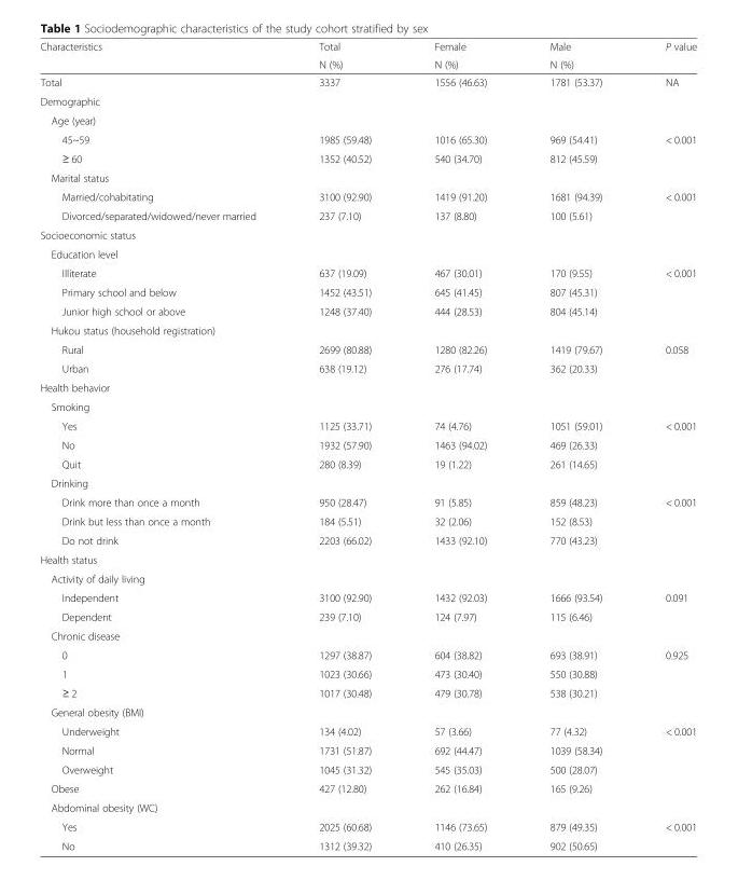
<table><thead><tr><td rowspan="2">Characteristics</td><td rowspan="2">Total N (%)</td><td rowspan="2">Female N (%)</td><td rowspan="2">Male N (%)</td><td rowspan="2">P value</td></tr><tr></tr></thead><tbody><tr><td>Total</td><td>3337</td><td>1556 (46.63)</td><td>1781 (53.37)</td><td>NA</td></tr><tr><td colspan="5">Demographic</td></tr><tr><td colspan="5">Age (year)</td></tr><tr><td>45~59</td><td>1985 (59.48)</td><td>1016 (65.30)</td><td>969 (54.41)</td><td>&lt; 0.001</td></tr><tr><td>≥ 60</td><td>1352 (40.52)</td><td>540 (34.70)</td><td>812 (45.59)</td><td></td></tr><tr><td colspan="5">Marital status</td></tr><tr><td>Married/cohabitating</td><td>3100 (92.90)</td><td>1419 (91.20)</td><td>1681 (94.39)</td><td>&lt; 0.001</td></tr><tr><td>Divorced/separated/widowed/never married</td><td>237 (7.10)</td><td>137 (8.80)</td><td>100 (5.61)</td><td></td></tr><tr><td colspan="5">Socioeconomic status</td></tr><tr><td colspan="5">Education level</td></tr><tr><td>Illiterate</td><td>637 (19.09)</td><td>467 (30.01)</td><td>170 (9.55)</td><td>&lt; 0.001</td></tr><tr><td>Primary school and below</td><td>1452 (43.51)</td><td>645 (41.45)</td><td>807 (45.31)</td><td></td></tr><tr><td>Junior high school or above</td><td>1248 (37.40)</td><td>444 (28.53)</td><td>804 (45.14)</td><td></td></tr><tr><td colspan="5">Hukou status (household registration)</td></tr><tr><td>Rural</td><td>2699 (80.88)</td><td>1280 (82.26)</td><td>1419 (79.67)</td><td>0.058</td></tr><tr><td>Urban</td><td>638 (19.12)</td><td>276 (17.74)</td><td>362 (20.33)</td><td></td></tr><tr><td colspan="5">Health behavior</td></tr><tr><td colspan="5">Smoking</td></tr><tr><td>Yes</td><td>1125 (33.71)</td><td>74 (4.76)</td><td>1051 (59.01)</td><td>&lt; 0.001</td></tr><tr><td>No</td><td>1932 (57.90)</td><td>1463 (94.02)</td><td>469 (26.33)</td><td></td></tr><tr><td>Quit</td><td>280 (8.39)</td><td>19 (1.22)</td><td>261 (14.65)</td><td></td></tr><tr><td colspan="5">Drinking</td></tr><tr><td>Drink more than once a month</td><td>950 (28.47)</td><td>91 (5.85)</td><td>859 (48.23)</td><td>&lt; 0.001</td></tr><tr><td>Drink but less than once a month</td><td>184 (5.51)</td><td>32 (2.06)</td><td>152 (8.53)</td><td></td></tr><tr><td>Do not drink</td><td>2203 (66.02)</td><td>1433 (92.10)</td><td>770 (43.23)</td><td></td></tr><tr><td colspan="5">Health status</td></tr><tr><td colspan="5">Activity of daily living</td></tr><tr><td>Independent</td><td>3100 (92.90)</td><td>1432 (92.03)</td><td>1666 (93.54)</td><td>0.091</td></tr><tr><td>Dependent</td><td>239 (7.10)</td><td>124 (7.97)</td><td>115 (6.46)</td><td></td></tr><tr><td colspan="5">Chronic disease</td></tr><tr><td>0</td><td>1297 (38.87)</td><td>604 (38.82)</td><td>693 (38.91)</td><td>0.925</td></tr><tr><td>1</td><td>1023 (30.66)</td><td>473 (30.40)</td><td>550 (30.88)</td><td></td></tr><tr><td>≥ 2</td><td>1017 (30.48)</td><td>479 (30.78)</td><td>538 (30.21)</td><td></td></tr><tr><td colspan="5">General obesity (BMI)</td></tr><tr><td>Underweight</td><td>134 (4.02)</td><td>57 (3.66)</td><td>77 (4.32)</td><td>&lt; 0.001</td></tr><tr><td>Normal</td><td>1731 (51.87)</td><td>692 (44.47)</td><td>1039 (58.34)</td><td></td></tr><tr><td>Overweight</td><td>1045 (31.32)</td><td>545 (35.03)</td><td>500 (28.07)</td><td></td></tr><tr><td>Obese</td><td>427 (12.80)</td><td>262 (16.84)</td><td>165 (9.26)</td><td></td></tr><tr><td colspan="5">Abdominal obesity (WC)</td></tr><tr><td>Yes</td><td>2025 (60.68)</td><td>1146 (73.65)</td><td>879 (49.35)</td><td>&lt; 0.001</td></tr><tr><td>No</td><td>1312 (39.32)</td><td>410 (26.35)</td><td>902 (50.65)</td><td></td></tr></tbody></table>